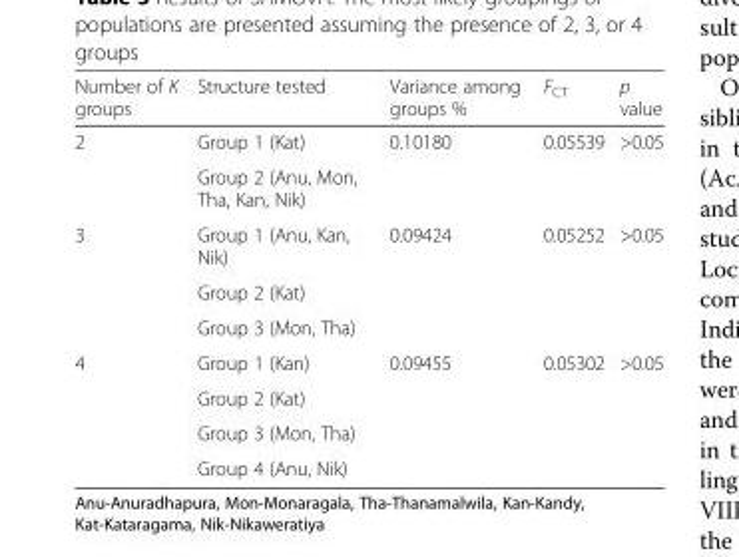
<table><thead><tr><td>Number of K groups</td><td>Structure tested</td><td>Variance among groups %</td><td>F<sub>CT</sub></td><td>p value</td></tr></thead><tbody><tr><td rowspan="2">2</td><td>Group 1 (Kat)</td><td rowspan="2">0.10180</td><td rowspan="2">0.05539</td><td rowspan="2">&gt;0.05</td></tr><tr><td>Group 2 (Anu, Mon, Tha, Kan, Nik)</td></tr><tr><td rowspan="3">3</td><td>Group 1 (Anu, Kan, Nik)</td><td rowspan="3">0.09424</td><td rowspan="3">0.05252</td><td rowspan="3">&gt;0.05</td></tr><tr><td>Group 2 (Kat)</td></tr><tr><td>Group 3 (Mon, Tha)</td></tr><tr><td rowspan="4">4</td><td>Group 1 (Kan)</td><td rowspan="4">0.09455</td><td rowspan="4">0.05302</td><td rowspan="4">&gt;0.05</td></tr><tr><td>Group 2 (Kat)</td></tr><tr><td>Group 3 (Mon, Tha)</td></tr><tr><td>Group 4 (Anu, Nik)</td></tr></tbody></table>